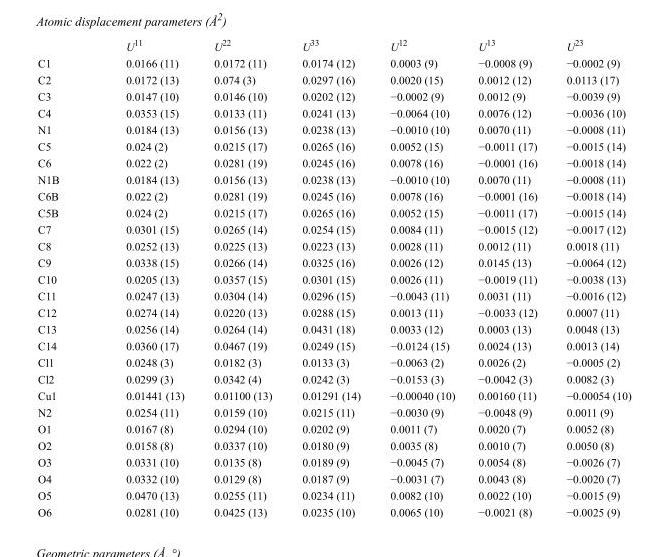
<table><thead><tr><td></td><td>U<sup>11</sup></td><td>U<sup>22</sup></td><td>U<sup>33</sup></td><td>U<sup>12</sup></td><td>U<sup>13</sup></td><td>U<sup>23</sup></td></tr></thead><tbody><tr><td>C1</td><td>0.0166 (11)</td><td>0.0172 (11)</td><td>0.0174 (12)</td><td>0.0003 (9)</td><td>−0.0008 (9)</td><td>−0.0002 (9)</td></tr><tr><td>C2</td><td>0.0172 (13)</td><td>0.074 (3)</td><td>0.0297 (16)</td><td>0.0020 (15)</td><td>0.0012 (12)</td><td>0.0113 (17)</td></tr><tr><td>C3</td><td>0.0147 (10)</td><td>0.0146 (10)</td><td>0.0202 (12)</td><td>−0.0002 (9)</td><td>0.0012 (9)</td><td>−0.0039 (9)</td></tr><tr><td>C4</td><td>0.0353 (15)</td><td>0.0133 (11)</td><td>0.0241 (13)</td><td>−0.0064 (10)</td><td>0.0076 (12)</td><td>−0.0036 (10)</td></tr><tr><td>N1</td><td>0.0184 (13)</td><td>0.0156 (13)</td><td>0.0238 (13)</td><td>−0.0010 (10)</td><td>0.0070 (11)</td><td>−0.0008 (11)</td></tr><tr><td>C5</td><td>0.024 (2)</td><td>0.0215 (17)</td><td>0.0265 (16)</td><td>0.0052 (15)</td><td>−0.0011 (17)</td><td>−0.0015 (14)</td></tr><tr><td>C6</td><td>0.022 (2)</td><td>0.0281 (19)</td><td>0.0245 (16)</td><td>0.0078 (16)</td><td>−0.0001 (16)</td><td>−0.0018 (14)</td></tr><tr><td>N1B</td><td>0.0184 (13)</td><td>0.0156 (13)</td><td>0.0238 (13)</td><td>−0.0010 (10)</td><td>0.0070 (11)</td><td>−0.0008 (11)</td></tr><tr><td>C6B</td><td>0.022 (2)</td><td>0.0281 (19)</td><td>0.0245 (16)</td><td>0.0078 (16)</td><td>−0.0001 (16)</td><td>−0.0018 (14)</td></tr><tr><td>C5B</td><td>0.024 (2)</td><td>0.0215 (17)</td><td>0.0265 (16)</td><td>0.0052 (15)</td><td>−0.0011 (17)</td><td>−0.0015 (14)</td></tr><tr><td>C7</td><td>0.0301 (15)</td><td>0.0265 (14)</td><td>0.0254 (15)</td><td>0.0084 (11)</td><td>−0.0015 (12)</td><td>−0.0017 (12)</td></tr><tr><td>C8</td><td>0.0252 (13)</td><td>0.0225 (13)</td><td>0.0223 (13)</td><td>0.0028 (11)</td><td>0.0012 (11)</td><td>0.0018 (11)</td></tr><tr><td>C9</td><td>0.0338 (15)</td><td>0.0266 (14)</td><td>0.0325 (16)</td><td>0.0026 (12)</td><td>0.0145 (13)</td><td>−0.0064 (12)</td></tr><tr><td>C10</td><td>0.0205 (13)</td><td>0.0357 (15)</td><td>0.0301 (15)</td><td>0.0026 (11)</td><td>−0.0019 (11)</td><td>−0.0038 (13)</td></tr><tr><td>C11</td><td>0.0247 (13)</td><td>0.0304 (14)</td><td>0.0296 (15)</td><td>−0.0043 (11)</td><td>0.0031 (11)</td><td>−0.0016 (12)</td></tr><tr><td>C12</td><td>0.0274 (14)</td><td>0.0220 (13)</td><td>0.0288 (15)</td><td>0.0013 (11)</td><td>−0.0033 (12)</td><td>0.0007 (11)</td></tr><tr><td>C13</td><td>0.0256 (14)</td><td>0.0264 (14)</td><td>0.0431 (18)</td><td>0.0033 (12)</td><td>0.0003 (13)</td><td>0.0048 (13)</td></tr><tr><td>C14</td><td>0.0360 (17)</td><td>0.0467 (19)</td><td>0.0249 (15)</td><td>−0.0124 (15)</td><td>0.0024 (13)</td><td>0.0013 (14)</td></tr><tr><td>Cl1</td><td>0.0248 (3)</td><td>0.0182 (3)</td><td>0.0133 (3)</td><td>−0.0063 (2)</td><td>0.0026 (2)</td><td>−0.0005 (2)</td></tr><tr><td>Cl2</td><td>0.0299 (3)</td><td>0.0342 (4)</td><td>0.0242 (3)</td><td>−0.0153 (3)</td><td>−0.0042 (3)</td><td>0.0082 (3)</td></tr><tr><td>Cu1</td><td>0.01441 (13)</td><td>0.01100 (13)</td><td>0.01291 (14)</td><td>−0.00040 (10)</td><td>0.00160 (11)</td><td>−0.00054 (10)</td></tr><tr><td>N2</td><td>0.0254 (11)</td><td>0.0159 (10)</td><td>0.0215 (11)</td><td>−0.0030 (9)</td><td>−0.0048 (9)</td><td>0.0011 (9)</td></tr><tr><td>O1</td><td>0.0167 (8)</td><td>0.0294 (10)</td><td>0.0202 (9)</td><td>0.0011 (7)</td><td>0.0020 (7)</td><td>0.0052 (8)</td></tr><tr><td>O2</td><td>0.0158 (8)</td><td>0.0337 (10)</td><td>0.0180 (9)</td><td>0.0035 (8)</td><td>0.0010 (7)</td><td>0.0050 (8)</td></tr><tr><td>O3</td><td>0.0331 (10)</td><td>0.0135 (8)</td><td>0.0189 (9)</td><td>−0.0045 (7)</td><td>0.0054 (8)</td><td>−0.0026 (7)</td></tr><tr><td>O4</td><td>0.0332 (10)</td><td>0.0129 (8)</td><td>0.0187 (9)</td><td>−0.0031 (7)</td><td>0.0043 (8)</td><td>−0.0020 (7)</td></tr><tr><td>O5</td><td>0.0470 (13)</td><td>0.0255 (11)</td><td>0.0234 (11)</td><td>0.0082 (10)</td><td>0.0022 (10)</td><td>−0.0015 (9)</td></tr><tr><td>O6</td><td>0.0281 (10)</td><td>0.0425 (13)</td><td>0.0235 (10)</td><td>0.0065 (10)</td><td>−0.0021 (8)</td><td>−0.0025 (9)</td></tr></tbody></table>